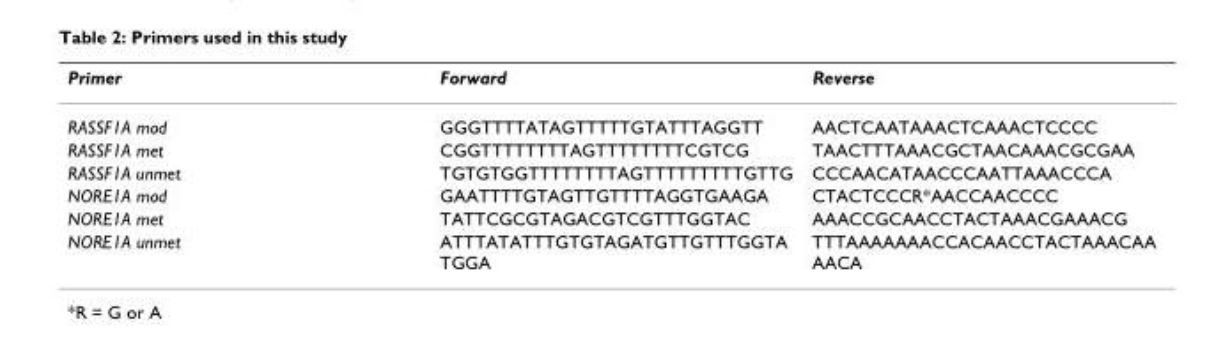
<table><thead><tr><td>Primer</td><td>Forward</td><td>Reverse</td></tr></thead><tbody><tr><td>RASSF1A mod</td><td>GGGTTTTATAGTTTTTGTATTTAGGTT</td><td>AACTCAATAAACTCAAACTCCCC</td></tr><tr><td>RASSF1A met</td><td>CGGTTTTTTTTAGTTTTTTTTCGTCG</td><td>TAACTTTAAACGCTAACAAACGCGAA</td></tr><tr><td>RASSF1A unmet</td><td>TGTGTGGTTTTTTTTAGTTTTTTTTTGTTG</td><td>CCCAACATAACCCAATTAAACCCA</td></tr><tr><td>NORE1A mod</td><td>GAATTTTGTAGTTGTTTTAGGTGAAGA</td><td>CTACTCCCR*AACCAACCCC</td></tr><tr><td>NORE1A met</td><td>TATTCGCGTAGACGTCGTTTGGTAC</td><td>AAACCGCAACCTACTAAACGAAACG</td></tr><tr><td>NORE1A unmet</td><td>ATTTATATTTGTGTAGATGTTGTTTGGTA TGGA</td><td>TTTAAAAAAACCACAACCTACTAAACAA AACA</td></tr></tbody></table>